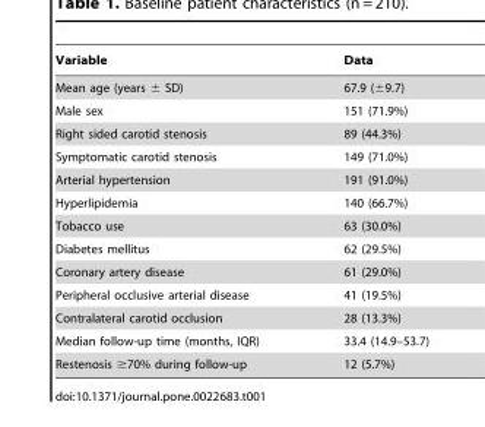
<table><thead><tr><td>Variable</td><td>Data</td></tr></thead><tbody><tr><td>Mean age (years ± SD)</td><td>67.9 (±9.7)</td></tr><tr><td>Male sex</td><td>151 (71.9%)</td></tr><tr><td>Right sided carotid stenosis</td><td>89 (44.3%)</td></tr><tr><td>Symptomatic carotid stenosis</td><td>149 (71.0%)</td></tr><tr><td>Arterial hypertension</td><td>191 (91.0%)</td></tr><tr><td>Hyperlipidemia</td><td>140 (66.7%)</td></tr><tr><td>Tobacco use</td><td>63 (30.0%)</td></tr><tr><td>Diabetes mellitus</td><td>62 (29.5%)</td></tr><tr><td>Coronary artery disease</td><td>61 (29.0%)</td></tr><tr><td>Peripheral occlusive arterial disease</td><td>41 (19.5%)</td></tr><tr><td>Contralateral carotid occlusion</td><td>28 (13.3%)</td></tr><tr><td>Median follow-up time (months, IQR)</td><td>33.4 (14.9–53.7)</td></tr><tr><td>Restenosis ≥70% during follow-up</td><td>12 (5.7%)</td></tr></tbody></table>